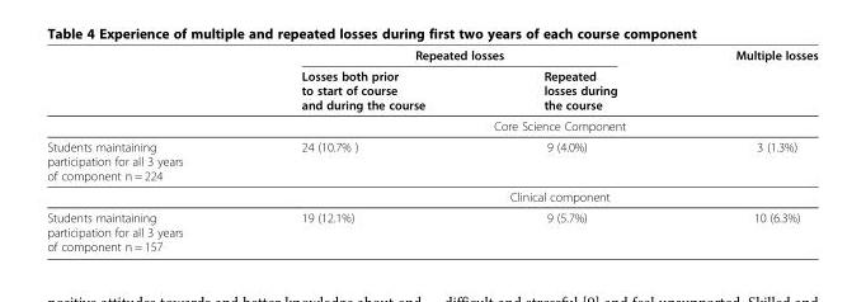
<table><thead><tr><td rowspan="2"></td><td colspan="2">Repeated losses</td><td rowspan="2">Multiple losses</td></tr><tr><td>Losses both prior to start of course and during the course</td><td>Repeated losses during the course</td></tr></thead><tbody><tr><td></td><td colspan="3">Core Science Component</td></tr><tr><td rowspan="2">Students maintaining participation for all 3 years of component n = 224</td><td>24 (10.7% )</td><td>9 (4.0%)</td><td>3 (1.3%)</td></tr><tr><td colspan="3">Clinical component</td></tr><tr><td>Students maintaining participation for all 3 years of component n = 157</td><td>19 (12.1%)</td><td>9 (5.7%)</td><td>10 (6.3%)</td></tr></tbody></table>